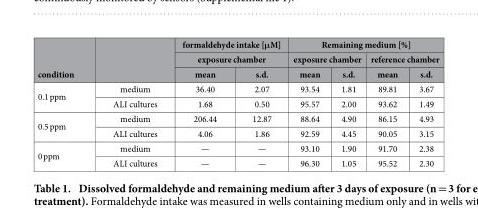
<table><thead><tr><td rowspan="3">condition</td><td rowspan="3"></td><td rowspan="2" colspan="2">formaldehyde intake [μM] exposure chamber</td><td colspan="4">Remaining medium [%]</td></tr><tr><td colspan="2">exposure chamber</td><td colspan="2">reference chamber</td></tr><tr><td>mean</td><td>s.d.</td><td>mean</td><td>s.d.</td><td>mean</td><td>s.d.</td></tr></thead><tbody><tr><td rowspan="2">0.1 ppm</td><td>medium</td><td>36.40</td><td>2.07</td><td>93.54</td><td>1.81</td><td>89.81</td><td>3.67</td></tr><tr><td>ALI cultures</td><td>1.68</td><td>0.50</td><td>95.57</td><td>2.00</td><td>93.62</td><td>1.49</td></tr><tr><td rowspan="2">0.5 ppm</td><td>medium</td><td>206.44</td><td>12.87</td><td>88.64</td><td>4.90</td><td>86.15</td><td>4.93</td></tr><tr><td>ALI cultures</td><td>4.06</td><td>1.86</td><td>92.59</td><td>4.45</td><td>90.05</td><td>3.15</td></tr><tr><td rowspan="2">0 ppm</td><td>medium</td><td>—</td><td>—</td><td>93.10</td><td>1.90</td><td>91.70</td><td>2.38</td></tr><tr><td>ALI cultures</td><td>—</td><td>—</td><td>96.30</td><td>1.05</td><td>95.52</td><td>2.30</td></tr></tbody></table>